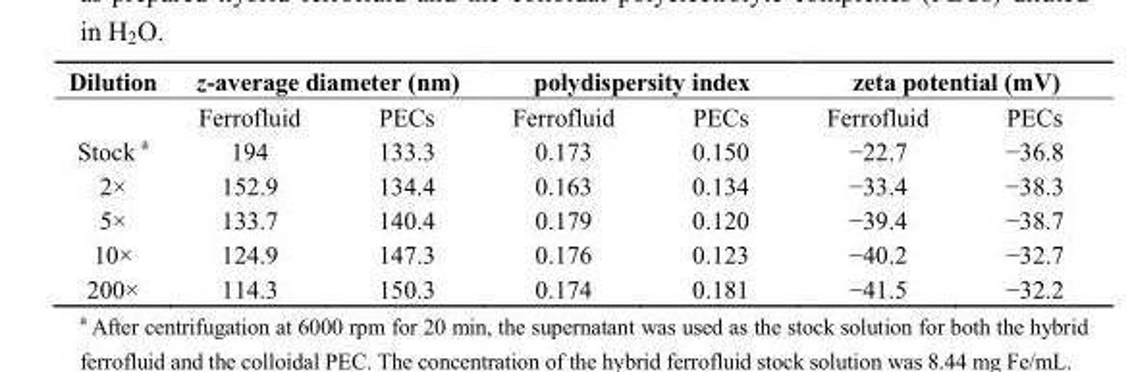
<table><thead><tr><td rowspan="2">Dilution</td><td colspan="2">z-average diameter (nm)</td><td colspan="2">polydispersity index</td><td colspan="2">zeta potential (mV)</td></tr><tr><td>Ferrofluid</td><td>PECs</td><td>Ferrofluid</td><td>PECs</td><td>Ferrofluid</td><td>PECs</td></tr></thead><tbody><tr><td>Stock <sup>a</sup></td><td>194</td><td>133.3</td><td>0.173</td><td>0.150</td><td>−22.7</td><td>−36.8</td></tr><tr><td>2×</td><td>152.9</td><td>134.4</td><td>0.163</td><td>0.134</td><td>−33.4</td><td>−38.3</td></tr><tr><td>5×</td><td>133.7</td><td>140.4</td><td>0.179</td><td>0.120</td><td>−39.4</td><td>−38.7</td></tr><tr><td>10×</td><td>124.9</td><td>147.3</td><td>0.176</td><td>0.123</td><td>−40.2</td><td>−32.7</td></tr><tr><td>200×</td><td>114.3</td><td>150.3</td><td>0.174</td><td>0.181</td><td>−41.5</td><td>−32.2</td></tr></tbody></table>